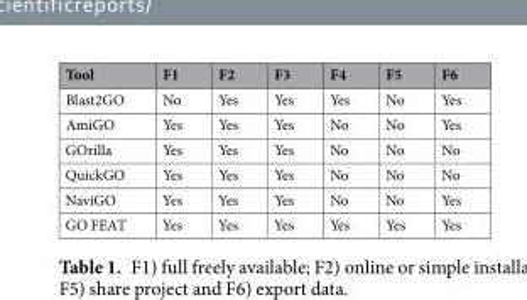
<table><thead><tr><td>Tool</td><td>F1</td><td>F2</td><td>F3</td><td>F4</td><td>F5</td><td>F6</td></tr></thead><tbody><tr><td>Blast2GO</td><td>No</td><td>Yes</td><td>Yes</td><td>Yes</td><td>No</td><td>Yes</td></tr><tr><td>AmiGO</td><td>Yes</td><td>Yes</td><td>Yes</td><td>No</td><td>No</td><td>Yes</td></tr><tr><td>GOrilla</td><td>Yes</td><td>Yes</td><td>Yes</td><td>No</td><td>No</td><td>No</td></tr><tr><td>QuickGO</td><td>Yes</td><td>Yes</td><td>Yes</td><td>No</td><td>No</td><td>No</td></tr><tr><td>NaviGO</td><td>Yes</td><td>Yes</td><td>Yes</td><td>No</td><td>No</td><td>Yes</td></tr><tr><td>GO FEAT</td><td>Yes</td><td>Yes</td><td>Yes</td><td>Yes</td><td>Yes</td><td>Yes</td></tr></tbody></table>